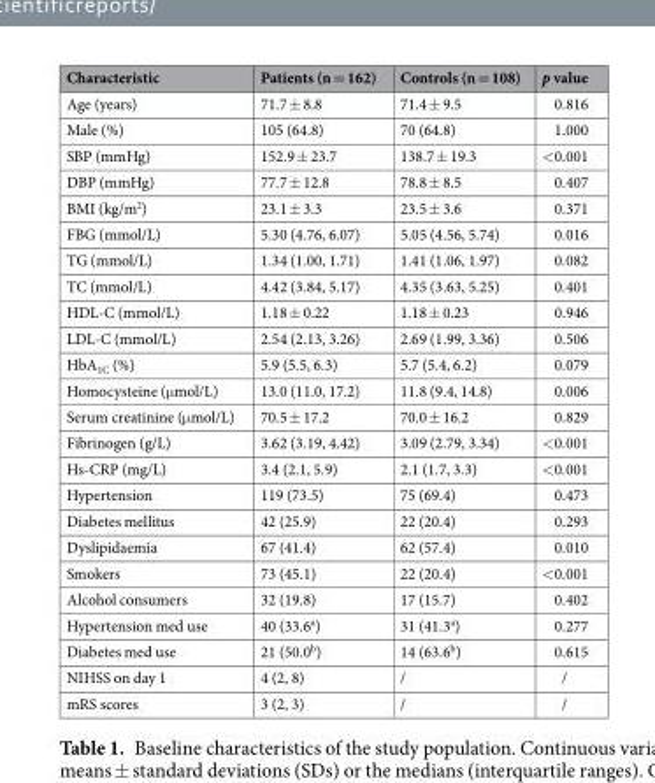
<table><thead><tr><td>Characteristic</td><td>Patients (n = 162)</td><td>Controls (n = 108)</td><td>p value</td></tr></thead><tbody><tr><td>Age (years)</td><td>71.7 ± 8.8</td><td>71.4 ± 9.5</td><td>0.816</td></tr><tr><td>Male (%)</td><td>105 (64.8)</td><td>70 (64.8)</td><td>1.000</td></tr><tr><td>SBP (mmHg)</td><td>152.9 ± 23.7</td><td>138.7 ± 19.3</td><td>&lt;0.001</td></tr><tr><td>DBP (mmHg)</td><td>77.7 ± 12.8</td><td>78.8 ± 8.5</td><td>0.407</td></tr><tr><td>BMI (kg/m<sup>2</sup>)</td><td>23.1 ± 3.3</td><td>23.5 ± 3.6</td><td>0.371</td></tr><tr><td>FBG (mmol/L)</td><td>5.30 (4.76, 6.07)</td><td>5.05 (4.56, 5.74)</td><td>0.016</td></tr><tr><td>TG (mmol/L)</td><td>1.34 (1.00, 1.71)</td><td>1.41 (1.06, 1.97)</td><td>0.082</td></tr><tr><td>TC (mmol/L)</td><td>4.42 (3.84, 5.17)</td><td>4.35 (3.63, 5.25)</td><td>0.401</td></tr><tr><td>HDL-C (mmol/L)</td><td>1.18 ± 0.22</td><td>1.18 ± 0.23</td><td>0.946</td></tr><tr><td>LDL-C (mmol/L)</td><td>2.54 (2.13, 3.26)</td><td>2.69 (1.99, 3.36)</td><td>0.506</td></tr><tr><td>HbA<sub>1C</sub> (%)</td><td>5.9 (5.5, 6.3)</td><td>5.7 (5.4, 6.2)</td><td>0.079</td></tr><tr><td>Homocysteine (μmol/L)</td><td>13.0 (11.0, 17.2)</td><td>11.8 (9.4, 14.8)</td><td>0.006</td></tr><tr><td>Serum creatinine (μmol/L)</td><td>70.5 ± 17.2</td><td>70.0 ± 16.2</td><td>0.829</td></tr><tr><td>Fibrinogen (g/L)</td><td>3.62 (3.19, 4.42)</td><td>3.09 (2.79, 3.34)</td><td>&lt;0.001</td></tr><tr><td>Hs-CRP (mg/L)</td><td>3.4 (2.1, 5.9)</td><td>2.1 (1.7, 3.3)</td><td>&lt;0.001</td></tr><tr><td>Hypertension</td><td>119 (73.5)</td><td>75 (69.4)</td><td>0.473</td></tr><tr><td>Diabetes mellitus</td><td>42 (25.9)</td><td>22 (20.4)</td><td>0.293</td></tr><tr><td>Dyslipidaemia</td><td>67 (41.4)</td><td>62 (57.4)</td><td>0.010</td></tr><tr><td>Smokers</td><td>73 (45.1)</td><td>22 (20.4)</td><td>&lt;0.001</td></tr><tr><td>Alcohol consumers</td><td>32 (19.8)</td><td>17 (15.7)</td><td>0.402</td></tr><tr><td>Hypertension med use</td><td>40 (33.6<sup>a</sup>)</td><td>31 (41.3<sup>a</sup>)</td><td>0.277</td></tr><tr><td>Diabetes med use</td><td>21 (50.0<sup>b</sup>)</td><td>14 (63.6<sup>b</sup>)</td><td>0.615</td></tr><tr><td>NIHSS on day 1</td><td>4 (2, 8)</td><td>/</td><td>/</td></tr><tr><td>mRS scores</td><td>3 (2, 3)</td><td>/</td><td>/</td></tr></tbody></table>